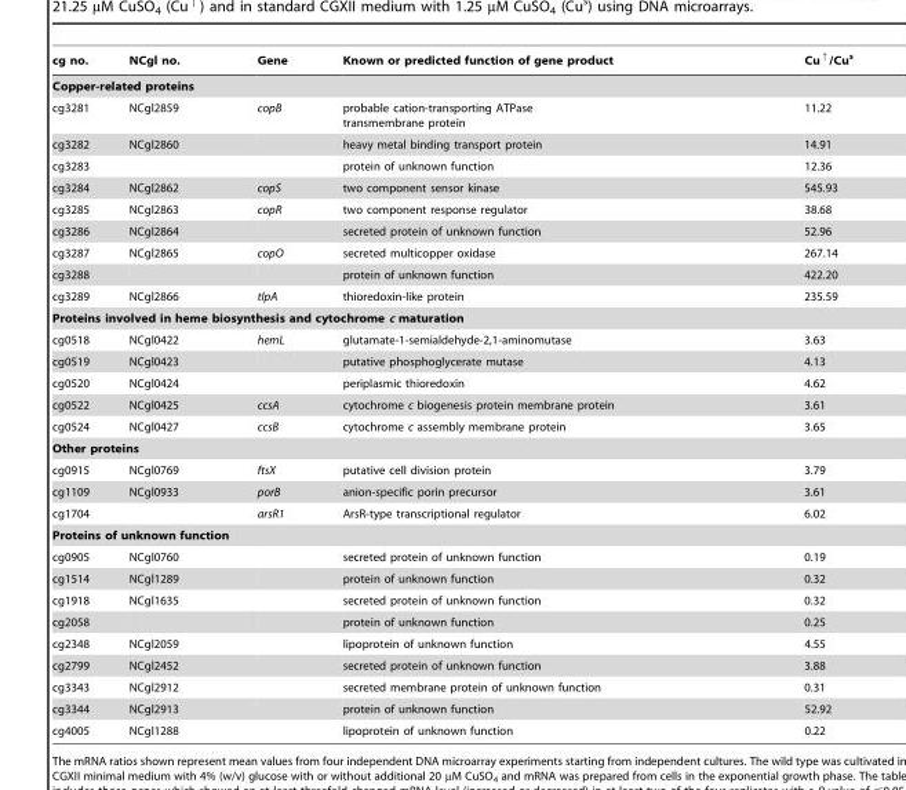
<table><thead><tr><td>cg no.</td><td>NCgl no.</td><td>Gene</td><td>Known or predicted function of gene product</td><td>Cu<sup>↑</sup>/Cu<sup>s</sup></td></tr></thead><tbody><tr><td colspan="5">Copper-related proteins</td></tr><tr><td>cg3281</td><td>NCgl2859</td><td>copB</td><td>probable cation-transporting ATPase transmembrane protein</td><td>11.22</td></tr><tr><td>cg3282</td><td>NCgl2860</td><td></td><td>heavy metal binding transport protein</td><td>14.91</td></tr><tr><td>cg3283</td><td></td><td></td><td>protein of unknown function</td><td>12.36</td></tr><tr><td>cg3284</td><td>NCgl2862</td><td>copS</td><td>two component sensor kinase</td><td>545.93</td></tr><tr><td>cg3285</td><td>NCgl2863</td><td>copR</td><td>two component response regulator</td><td>38.68</td></tr><tr><td>cg3286</td><td>NCgl2864</td><td></td><td>secreted protein of unknown function</td><td>52.96</td></tr><tr><td>cg3287</td><td>NCgl2865</td><td>copO</td><td>secreted multicopper oxidase</td><td>267.14</td></tr><tr><td>cg3288</td><td></td><td></td><td>protein of unknown function</td><td>422.20</td></tr><tr><td>cg3289</td><td>NCgl2866</td><td>tlpA</td><td>thioredoxin-like protein</td><td>235.59</td></tr><tr><td colspan="5">Proteins involved in heme biosynthesis and cytochrome c maturation</td></tr><tr><td>cg0518</td><td>NCgl0422</td><td>hemL</td><td>glutamate-1-semialdehyde-2,1-aminomutase</td><td>3.63</td></tr><tr><td>cg0519</td><td>NCgl0423</td><td></td><td>putative phosphoglycerate mutase</td><td>4.13</td></tr><tr><td>cg0520</td><td>NCgl0424</td><td></td><td>periplasmic thioredoxin</td><td>4.62</td></tr><tr><td>cg0522</td><td>NCgl0425</td><td>ccsA</td><td>cytochrome c biogenesis protein membrane protein</td><td>3.61</td></tr><tr><td>cg0524</td><td>NCgl0427</td><td>ccsB</td><td>cytochrome c assembly membrane protein</td><td>3.65</td></tr><tr><td colspan="5">Other proteins</td></tr><tr><td>cg0915</td><td>NCgl0769</td><td>ftsX</td><td>putative cell division protein</td><td>3.79</td></tr><tr><td>cg1109</td><td>NCgl0933</td><td>porB</td><td>anion-specific porin precursor</td><td>3.61</td></tr><tr><td>cg1704</td><td></td><td>arsR1</td><td>ArsR-type transcriptional regulator</td><td>6.02</td></tr><tr><td colspan="5">Proteins of unknown function</td></tr><tr><td>cg0905</td><td>NCgl0760</td><td></td><td>secreted protein of unknown function</td><td>0.19</td></tr><tr><td>cg1514</td><td>NCgl1289</td><td></td><td>protein of unknown function</td><td>0.32</td></tr><tr><td>cg1918</td><td>NCgl1635</td><td></td><td>secreted protein of unknown function</td><td>0.32</td></tr><tr><td>cg2058</td><td></td><td></td><td>protein of unknown function</td><td>0.25</td></tr><tr><td>cg2348</td><td>NCgl2059</td><td></td><td>lipoprotein of unknown function</td><td>4.55</td></tr><tr><td>cg2799</td><td>NCgl2452</td><td></td><td>secreted protein of unknown function</td><td>3.88</td></tr><tr><td>cg3343</td><td>NCgl2912</td><td></td><td>secreted membrane protein of unknown function</td><td>0.31</td></tr><tr><td>cg3344</td><td>NCgl2913</td><td></td><td>protein of unknown function</td><td>52.92</td></tr><tr><td>cg4005</td><td>NCgl1288</td><td></td><td>lipoprotein of unknown function</td><td>0.22</td></tr></tbody></table>